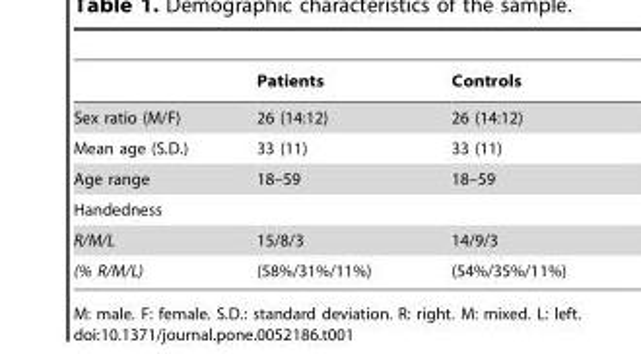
<table><thead><tr><td></td><td>Patients</td><td>Controls</td></tr></thead><tbody><tr><td>Sex ratio (M/F)</td><td>26 (14:12)</td><td>26 (14:12)</td></tr><tr><td>Mean age (S.D.)</td><td>33 (11)</td><td>33 (11)</td></tr><tr><td>Age range</td><td>18–59</td><td>18–59</td></tr><tr><td colspan="3">Handedness</td></tr><tr><td>R/M/L</td><td>15/8/3</td><td>14/9/3</td></tr><tr><td>(% R/M/L)</td><td>(58%/31%/11%)</td><td>(54%/35%/11%)</td></tr></tbody></table>